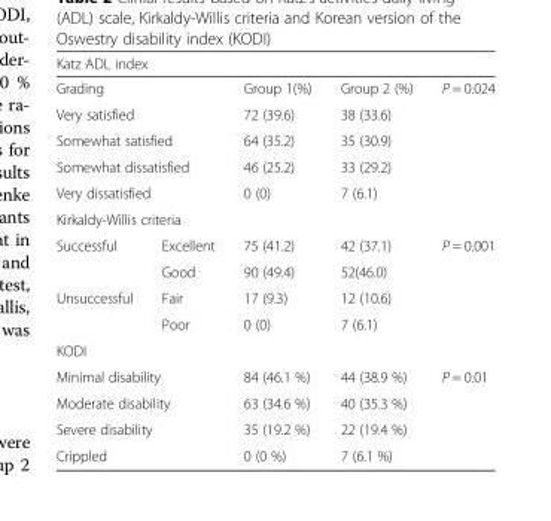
<table><thead><tr><td colspan="5">Katz ADL index</td></tr></thead><tbody><tr><td colspan="2">Grading</td><td>Group 1(%)</td><td>Group 2 (%)</td><td rowspan="5">P = 0.024</td></tr><tr><td colspan="2">Very satisfied</td><td>72 (39.6)</td><td>38 (33.6)</td></tr><tr><td colspan="2">Somewhat satisfied</td><td>64 (35.2)</td><td>35 (30.9)</td></tr><tr><td colspan="2">Somewhat dissatisfied</td><td>46 (25.2)</td><td>33 (29.2)</td></tr><tr><td colspan="2">Very dissatisfied</td><td>0 (0)</td><td>7 (6.1)</td></tr><tr><td colspan="5">Kirkaldy-Willis criteria</td></tr><tr><td rowspan="2">Successful</td><td>Excellent</td><td>75 (41.2)</td><td>42 (37.1)</td><td rowspan="4">P = 0.001</td></tr><tr><td>Good</td><td>90 (49.4)</td><td>52(46.0)</td></tr><tr><td rowspan="2">Unsuccessful</td><td>Fair</td><td>17 (9.3)</td><td>12 (10.6)</td></tr><tr><td>Poor</td><td>0 (0)</td><td>7 (6.1)</td></tr><tr><td colspan="5">KODI</td></tr><tr><td colspan="2">Minimal disability</td><td>84 (46.1 %)</td><td>44 (38.9 %)</td><td rowspan="4">P = 0.01</td></tr><tr><td colspan="2">Moderate disability</td><td>63 (34.6 %)</td><td>40 (35.3 %)</td></tr><tr><td colspan="2">Severe disability</td><td>35 (19.2 %)</td><td>22 (19.4 %)</td></tr><tr><td colspan="2">Crippled</td><td>0 (0 %)</td><td>7 (6.1 %)</td></tr></tbody></table>